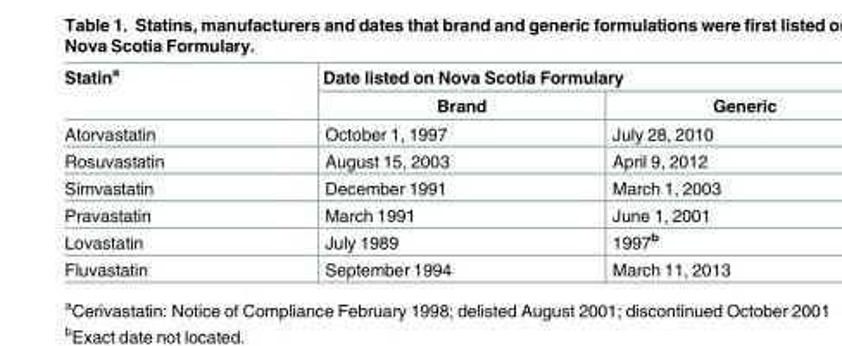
<table><thead><tr><td rowspan="2">Statin<sup>a</sup></td><td colspan="2">Date listed on Nova Scotia Formulary</td></tr><tr><td>Brand</td><td>Generic</td></tr></thead><tbody><tr><td>Atorvastatin</td><td>October 1, 1997</td><td>July 28, 2010</td></tr><tr><td>Rosuvastatin</td><td>August 15, 2003</td><td>April 9, 2012</td></tr><tr><td>Simvastatin</td><td>December 1991</td><td>March 1, 2003</td></tr><tr><td>Pravastatin</td><td>March 1991</td><td>June 1, 2001</td></tr><tr><td>Lovastatin</td><td>July 1989</td><td>1997<sup>b</sup></td></tr><tr><td>Fluvastatin</td><td>September 1994</td><td>March 11, 2013</td></tr></tbody></table>